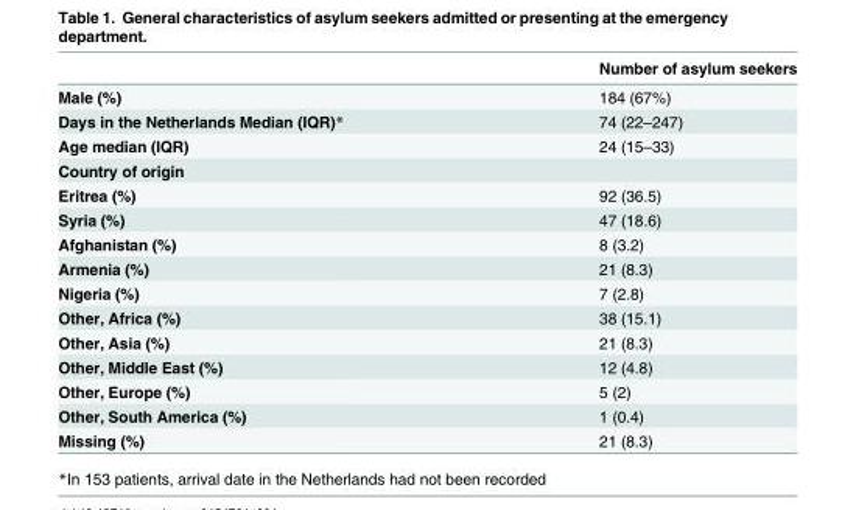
<table><thead><tr><td></td><td>Number of asylum seekers</td></tr></thead><tbody><tr><td>Male (%)</td><td>184 (67%)</td></tr><tr><td>Days in the Netherlands Median (IQR)*</td><td>74 (22–247)</td></tr><tr><td>Age median (IQR)</td><td>24 (15–33)</td></tr><tr><td colspan="2">Country of origin</td></tr><tr><td>Eritrea (%)</td><td>92 (36.5)</td></tr><tr><td>Syria (%)</td><td>47 (18.6)</td></tr><tr><td>Afghanistan (%)</td><td>8 (3.2)</td></tr><tr><td>Armenia (%)</td><td>21 (8.3)</td></tr><tr><td>Nigeria (%)</td><td>7 (2.8)</td></tr><tr><td>Other, Africa (%)</td><td>38 (15.1)</td></tr><tr><td>Other, Asia (%)</td><td>21 (8.3)</td></tr><tr><td>Other, Middle East (%)</td><td>12 (4.8)</td></tr><tr><td>Other, Europe (%)</td><td>5 (2)</td></tr><tr><td>Other, South America (%)</td><td>1 (0.4)</td></tr><tr><td>Missing (%)</td><td>21 (8.3)</td></tr></tbody></table>